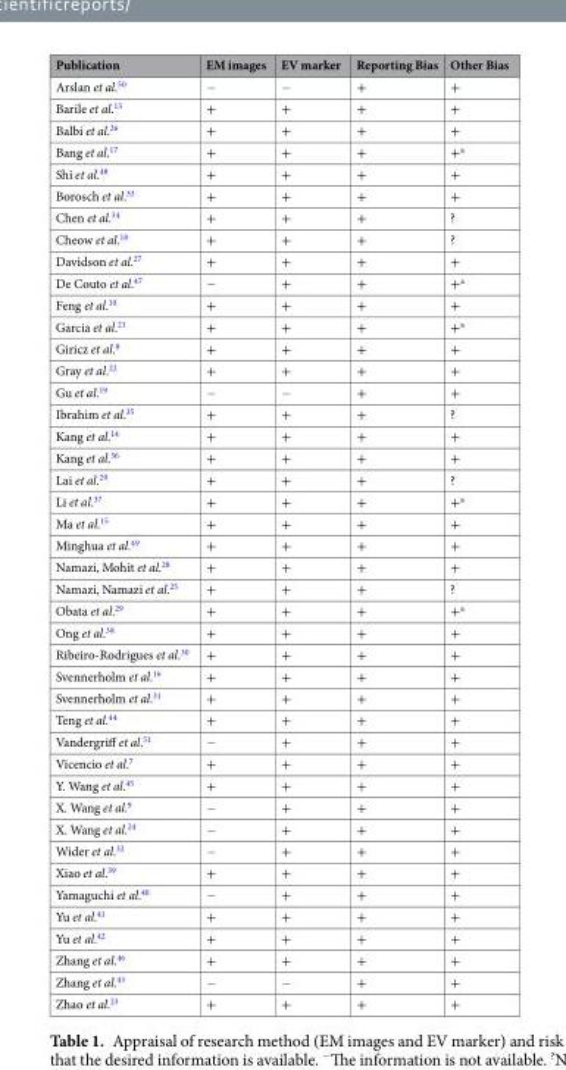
<table><thead><tr><td>Publication</td><td>EM images</td><td>EV marker</td><td>Reporting Bias</td><td>Other Bias</td></tr></thead><tbody><tr><td>Arslan et al.<sup>50</sup></td><td>−</td><td>−</td><td>+</td><td>+</td></tr><tr><td>Barile et al.<sup>13</sup></td><td>+</td><td>+</td><td>+</td><td>+</td></tr><tr><td>Balbi et al.<sup>26</sup></td><td>+</td><td>+</td><td>+</td><td>+</td></tr><tr><td>Bang et al.<sup>17</sup></td><td>+</td><td>+</td><td>+</td><td>+<sup>a</sup></td></tr><tr><td>Shi et al.<sup>48</sup></td><td>+</td><td>+</td><td>+</td><td>+</td></tr><tr><td>Borosch et al.<sup>33</sup></td><td>+</td><td>+</td><td>+</td><td>+</td></tr><tr><td>Chen et al.<sup>34</sup></td><td>+</td><td>+</td><td>+</td><td>?</td></tr><tr><td>Cheow et al.<sup>18</sup></td><td>+</td><td>+</td><td>+</td><td>?</td></tr><tr><td>Davidson et al.<sup>27</sup></td><td>+</td><td>+</td><td>+</td><td>+</td></tr><tr><td>De Couto et al.<sup>47</sup></td><td>−</td><td>+</td><td>+</td><td>+<sup>a</sup></td></tr><tr><td>Feng et al.<sup>10</sup></td><td>+</td><td>+</td><td>+</td><td>+</td></tr><tr><td>Garcia et al.<sup>21</sup></td><td>+</td><td>+</td><td>+</td><td>+<sup>a</sup></td></tr><tr><td>Giricz et al.<sup>8</sup></td><td>+</td><td>+</td><td>+</td><td>+</td></tr><tr><td>Gray et al.<sup>22</sup></td><td>+</td><td>+</td><td>+</td><td>+</td></tr><tr><td>Gu et al.<sup>19</sup></td><td>−</td><td>−</td><td>+</td><td>+</td></tr><tr><td>Ibrahim et al.<sup>35</sup></td><td>+</td><td>+</td><td>+</td><td>?</td></tr><tr><td>Kang et al.<sup>14</sup></td><td>+</td><td>+</td><td>+</td><td>+</td></tr><tr><td>Kang et al.<sup>36</sup></td><td>+</td><td>+</td><td>+</td><td>+</td></tr><tr><td>Lai et al.<sup>20</sup></td><td>+</td><td>+</td><td>+</td><td>?</td></tr><tr><td>Li et al.<sup>37</sup></td><td>+</td><td>+</td><td>+</td><td>+<sup>a</sup></td></tr><tr><td>Ma et al.<sup>15</sup></td><td>+</td><td>+</td><td>+</td><td>+</td></tr><tr><td>Minghua et al.<sup>49</sup></td><td>+</td><td>+</td><td>+</td><td>+</td></tr><tr><td>Namazi, Mohit et al.<sup>28</sup></td><td>+</td><td>+</td><td>+</td><td>+</td></tr><tr><td>Namazi, Namazi et al.<sup>25</sup></td><td>+</td><td>+</td><td>+</td><td>?</td></tr><tr><td>Obata et al.<sup>29</sup></td><td>+</td><td>+</td><td>+</td><td>+<sup>a</sup></td></tr><tr><td>Ong et al.<sup>38</sup></td><td>+</td><td>+</td><td>+</td><td>+</td></tr><tr><td>Ribeiro-Rodrigues et al.<sup>30</sup></td><td>+</td><td>+</td><td>+</td><td>+</td></tr><tr><td>Svennerholm et al.<sup>16</sup></td><td>+</td><td>+</td><td>+</td><td>+</td></tr><tr><td>Svennerholm et al.<sup>31</sup></td><td>+</td><td>+</td><td>+</td><td>+</td></tr><tr><td>Teng et al.<sup>44</sup></td><td>+</td><td>+</td><td>+</td><td>+</td></tr><tr><td>Vandergriff et al.<sup>51</sup></td><td>−</td><td>+</td><td>+</td><td>+</td></tr><tr><td>Vicencio et al.<sup>7</sup></td><td>+</td><td>+</td><td>+</td><td>+</td></tr><tr><td>Y. Wang et al.<sup>45</sup></td><td>+</td><td>+</td><td>+</td><td>+</td></tr><tr><td>X. Wang et al.<sup>9</sup></td><td>−</td><td>+</td><td>+</td><td>+</td></tr><tr><td>X. Wang et al.<sup>24</sup></td><td>−</td><td>+</td><td>+</td><td>+</td></tr><tr><td>Wider et al.<sup>32</sup></td><td>−</td><td>+</td><td>+</td><td>+</td></tr><tr><td>Xiao et al.<sup>39</sup></td><td>+</td><td>+</td><td>+</td><td>+</td></tr><tr><td>Yamaguchi et al.<sup>40</sup></td><td>−</td><td>+</td><td>+</td><td>+</td></tr><tr><td>Yu et al.<sup>41</sup></td><td>+</td><td>+</td><td>+</td><td>+</td></tr><tr><td>Yu et al.<sup>42</sup></td><td>+</td><td>+</td><td>+</td><td>+</td></tr><tr><td>Zhang et al.<sup>46</sup></td><td>+</td><td>+</td><td>+</td><td>+</td></tr><tr><td>Zhang et al.<sup>43</sup></td><td>−</td><td>−</td><td>+</td><td>+</td></tr><tr><td>Zhao et al.<sup>23</sup></td><td>+</td><td>+</td><td>+</td><td>+</td></tr></tbody></table>